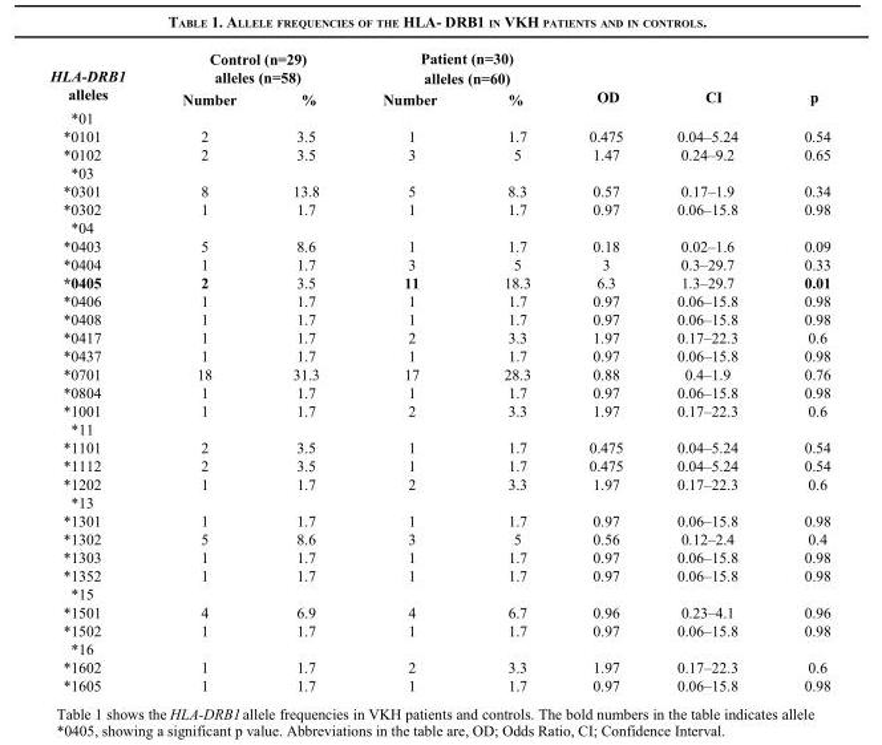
<table><thead><tr><td rowspan="2">HLA-DRB1 alleles</td><td colspan="2">Control (n=29) alleles (n=58)</td><td colspan="2">Patient (n=30) alleles (n=60)</td><td rowspan="2">OD</td><td rowspan="2">CI</td><td rowspan="2">p</td></tr><tr><td>Number</td><td>%</td><td>Number</td><td>%</td></tr></thead><tbody><tr><td colspan="8">*01</td></tr><tr><td>*0101</td><td>2</td><td>3.5</td><td>1</td><td>1.7</td><td>0.475</td><td>0.04–5.24</td><td>0.54</td></tr><tr><td>*0102</td><td>2</td><td>3.5</td><td>3</td><td>5</td><td>1.47</td><td>0.24–9.2</td><td>0.65</td></tr><tr><td colspan="8">*03</td></tr><tr><td>*0301</td><td>8</td><td>13.8</td><td>5</td><td>8.3</td><td>0.57</td><td>0.17–1.9</td><td>0.34</td></tr><tr><td>*0302</td><td>1</td><td>1.7</td><td>1</td><td>1.7</td><td>0.97</td><td>0.06–15.8</td><td>0.98</td></tr><tr><td colspan="8">*04</td></tr><tr><td>*0403</td><td>5</td><td>8.6</td><td>1</td><td>1.7</td><td>0.18</td><td>0.02–1.6</td><td>0.09</td></tr><tr><td>*0404</td><td>1</td><td>1.7</td><td>3</td><td>5</td><td>3</td><td>0.3–29.7</td><td>0.33</td></tr><tr><td>*0405</td><td>2</td><td>3.5</td><td>11</td><td>18.3</td><td>6.3</td><td>1.3–29.7</td><td>0.01</td></tr><tr><td>*0406</td><td>1</td><td>1.7</td><td>1</td><td>1.7</td><td>0.97</td><td>0.06–15.8</td><td>0.98</td></tr><tr><td>*0408</td><td>1</td><td>1.7</td><td>1</td><td>1.7</td><td>0.97</td><td>0.06–15.8</td><td>0.98</td></tr><tr><td>*0417</td><td>1</td><td>1.7</td><td>2</td><td>3.3</td><td>1.97</td><td>0.17–22.3</td><td>0.6</td></tr><tr><td>*0437</td><td>1</td><td>1.7</td><td>1</td><td>1.7</td><td>0.97</td><td>0.06–15.8</td><td>0.98</td></tr><tr><td>*0701</td><td>18</td><td>31.3</td><td>17</td><td>28.3</td><td>0.88</td><td>0.4–1.9</td><td>0.76</td></tr><tr><td>*0804</td><td>1</td><td>1.7</td><td>1</td><td>1.7</td><td>0.97</td><td>0.06–15.8</td><td>0.98</td></tr><tr><td>*1001</td><td>1</td><td>1.7</td><td>2</td><td>3.3</td><td>1.97</td><td>0.17–22.3</td><td>0.6</td></tr><tr><td colspan="8">*11</td></tr><tr><td>*1101</td><td>2</td><td>3.5</td><td>1</td><td>1.7</td><td>0.475</td><td>0.04–5.24</td><td>0.54</td></tr><tr><td>*1112</td><td>2</td><td>3.5</td><td>1</td><td>1.7</td><td>0.475</td><td>0.04–5.24</td><td>0.54</td></tr><tr><td>*1202</td><td>1</td><td>1.7</td><td>2</td><td>3.3</td><td>1.97</td><td>0.17–22.3</td><td>0.6</td></tr><tr><td colspan="8">*13</td></tr><tr><td>*1301</td><td>1</td><td>1.7</td><td>1</td><td>1.7</td><td>0.97</td><td>0.06–15.8</td><td>0.98</td></tr><tr><td>*1302</td><td>5</td><td>8.6</td><td>3</td><td>5</td><td>0.56</td><td>0.12–2.4</td><td>0.4</td></tr><tr><td>*1303</td><td>1</td><td>1.7</td><td>1</td><td>1.7</td><td>0.97</td><td>0.06–15.8</td><td>0.98</td></tr><tr><td>*1352</td><td>1</td><td>1.7</td><td>1</td><td>1.7</td><td>0.97</td><td>0.06–15.8</td><td>0.98</td></tr><tr><td colspan="8">*15</td></tr><tr><td>*1501</td><td>4</td><td>6.9</td><td>4</td><td>6.7</td><td>0.96</td><td>0.23–4.1</td><td>0.96</td></tr><tr><td>*1502</td><td>1</td><td>1.7</td><td>1</td><td>1.7</td><td>0.97</td><td>0.06–15.8</td><td>0.98</td></tr><tr><td colspan="8">*16</td></tr><tr><td>*1602</td><td>1</td><td>1.7</td><td>2</td><td>3.3</td><td>1.97</td><td>0.17–22.3</td><td>0.6</td></tr><tr><td>*1605</td><td>1</td><td>1.7</td><td>1</td><td>1.7</td><td>0.97</td><td>0.06–15.8</td><td>0.98</td></tr></tbody></table>